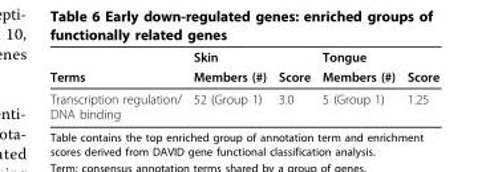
<table><thead><tr><td rowspan="2">Terms</td><td rowspan="2">Skin Members (#)</td><td rowspan="2">Score</td><td rowspan="2">Tongue Members (#)</td><td rowspan="2">Score</td></tr><tr></tr></thead><tbody><tr><td>Transcription regulation/ DNA binding</td><td>52 (Group 1)</td><td>3.0</td><td>5 (Group 1)</td><td>1.25</td></tr></tbody></table>